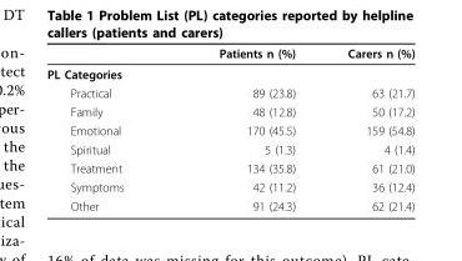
<table><thead><tr><td></td><td>Patients n (%)</td><td>Carers n (%)</td></tr></thead><tbody><tr><td colspan="3">PL Categories</td></tr><tr><td>Practical</td><td>89 (23.8)</td><td>63 (21.7)</td></tr><tr><td>Family</td><td>48 (12.8)</td><td>50 (17.2)</td></tr><tr><td>Emotional</td><td>170 (45.5)</td><td>159 (54.8)</td></tr><tr><td>Spiritual</td><td>5 (1.3)</td><td>4 (1.4)</td></tr><tr><td>Treatment</td><td>134 (35.8)</td><td>61 (21.0)</td></tr><tr><td>Symptoms</td><td>42 (11.2)</td><td>36 (12.4)</td></tr><tr><td>Other</td><td>91 (24.3)</td><td>62 (21.4)</td></tr></tbody></table>